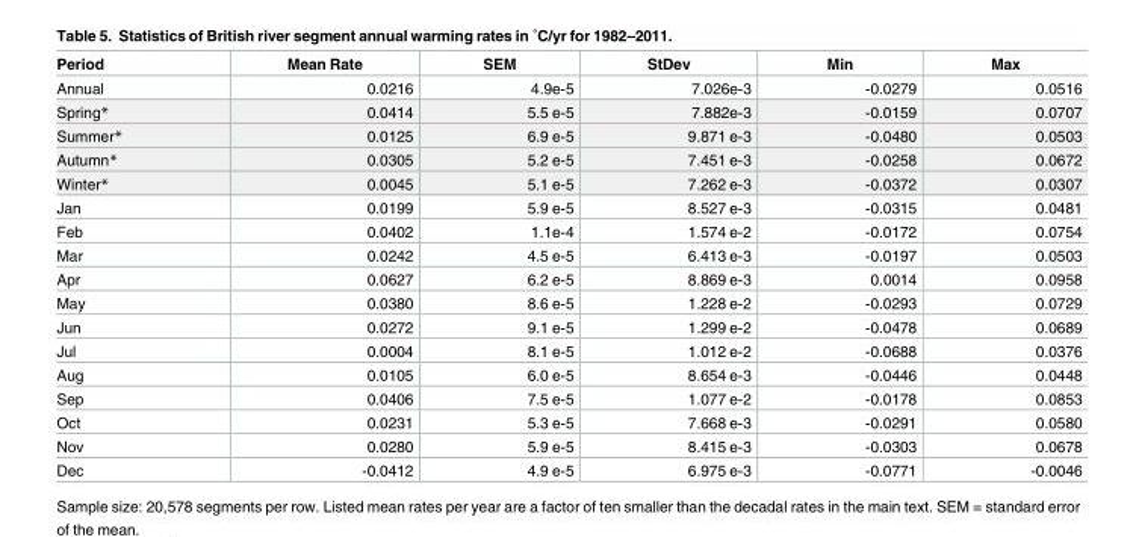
<table><thead><tr><td>Period</td><td>Mean Rate</td><td>SEM</td><td>StDev</td><td>Min</td><td>Max</td></tr></thead><tbody><tr><td>Annual</td><td>0.0216</td><td>4.9e-5</td><td>7.026e-3</td><td>-0.0279</td><td>0.0516</td></tr><tr><td>Spring*</td><td>0.0414</td><td>5.5 e-5</td><td>7.882e-3</td><td>-0.0159</td><td>0.0707</td></tr><tr><td>Summer*</td><td>0.0125</td><td>6.9 e-5</td><td>9.871 e-3</td><td>-0.0480</td><td>0.0503</td></tr><tr><td>Autumn*</td><td>0.0305</td><td>5.2 e-5</td><td>7.451 e-3</td><td>-0.0258</td><td>0.0672</td></tr><tr><td>Winter*</td><td>0.0045</td><td>5.1 e-5</td><td>7.262 e-3</td><td>-0.0372</td><td>0.0307</td></tr><tr><td>Jan</td><td>0.0199</td><td>5.9 e-5</td><td>8.527 e-3</td><td>-0.0315</td><td>0.0481</td></tr><tr><td>Feb</td><td>0.0402</td><td>1.1e-4</td><td>1.574 e-2</td><td>-0.0172</td><td>0.0754</td></tr><tr><td>Mar</td><td>0.0242</td><td>4.5 e-5</td><td>6.413 e-3</td><td>-0.0197</td><td>0.0503</td></tr><tr><td>Apr</td><td>0.0627</td><td>6.2 e-5</td><td>8.869 e-3</td><td>0.0014</td><td>0.0958</td></tr><tr><td>May</td><td>0.0380</td><td>8.6 e-5</td><td>1.228 e-2</td><td>-0.0293</td><td>0.0729</td></tr><tr><td>Jun</td><td>0.0272</td><td>9.1 e-5</td><td>1.299 e-2</td><td>-0.0478</td><td>0.0689</td></tr><tr><td>Jul</td><td>0.0004</td><td>8.1 e-5</td><td>1.012 e-2</td><td>-0.0688</td><td>0.0376</td></tr><tr><td>Aug</td><td>0.0105</td><td>6.0 e-5</td><td>8.654 e-3</td><td>-0.0446</td><td>0.0448</td></tr><tr><td>Sep</td><td>0.0406</td><td>7.5 e-5</td><td>1.077 e-2</td><td>-0.0178</td><td>0.0853</td></tr><tr><td>Oct</td><td>0.0231</td><td>5.3 e-5</td><td>7.668 e-3</td><td>-0.0291</td><td>0.0580</td></tr><tr><td>Nov</td><td>0.0280</td><td>5.9 e-5</td><td>8.415 e-3</td><td>-0.0303</td><td>0.0678</td></tr><tr><td>Dec</td><td>-0.0412</td><td>4.9 e-5</td><td>6.975 e-3</td><td>-0.0771</td><td>-0.0046</td></tr></tbody></table>